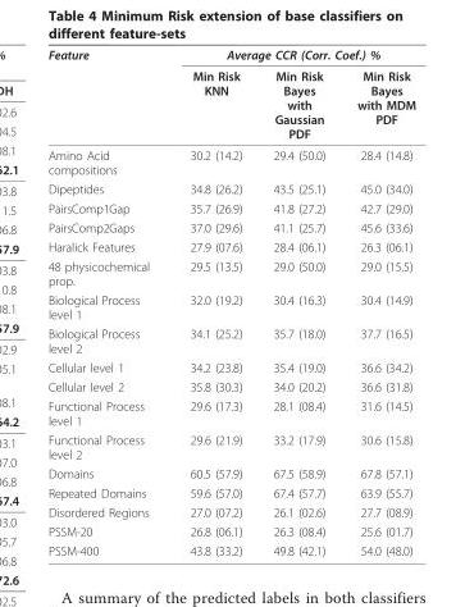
<table><thead><tr><td rowspan="2">Feature</td><td colspan="3">Average CCR (Corr. Coef.) %</td></tr><tr><td>Min Risk KNN</td><td>Min Risk Bayes with Gaussian PDF</td><td>Min Risk Bayes with MDM PDF</td></tr></thead><tbody><tr><td>Amino Acid compositions</td><td>30.2 (14.2)</td><td>29.4 (50.0)</td><td>28.4 (14.8)</td></tr><tr><td>Dipeptides</td><td>34.8 (26.2)</td><td>43.5 (25.1)</td><td>45.0 (34.0)</td></tr><tr><td>PairsComp1Gap</td><td>35.7 (26.9)</td><td>41.8 (27.2)</td><td>42.7 (29.0)</td></tr><tr><td>PairsComp2Gaps</td><td>37.0 (29.6)</td><td>41.1 (25.7)</td><td>45.6 (33.6)</td></tr><tr><td>Haralick Features</td><td>27.9 (07.6)</td><td>28.4 (06.1)</td><td>26.3 (06.1)</td></tr><tr><td>48 physicochemical prop.</td><td>29.5 (13.5)</td><td>29.0 (50.0)</td><td>29.0 (15.5)</td></tr><tr><td>Biological Process level 1</td><td>32.0 (19.2)</td><td>30.4 (16.3)</td><td>30.4 (14.9)</td></tr><tr><td>Biological Process level 2</td><td>34.1 (25.2)</td><td>35.7 (18.0)</td><td>37.7 (16.5)</td></tr><tr><td>Cellular level 1</td><td>34.2 (23.8)</td><td>35.4 (19.0)</td><td>36.6 (34.2)</td></tr><tr><td>Cellular level 2</td><td>35.8 (30.3)</td><td>34.0 (20.2)</td><td>36.6 (31.8)</td></tr><tr><td>Functional Process level 1</td><td>29.6 (17.3)</td><td>28.1 (08.4)</td><td>31.6 (14.5)</td></tr><tr><td>Functional Process level 2</td><td>29.6 (21.9)</td><td>33.2 (17.9)</td><td>30.6 (15.8)</td></tr><tr><td>Domains</td><td>60.5 (57.9)</td><td>67.5 (58.9)</td><td>67.8 (57.1)</td></tr><tr><td>Repeated Domains</td><td>59.6 (57.0)</td><td>67.4 (57.7)</td><td>63.9 (55.7)</td></tr><tr><td>Disordered Regions</td><td>27.0 (07.2)</td><td>26.1 (02.6)</td><td>27.7 (08.9)</td></tr><tr><td>PSSM-20</td><td>26.8 (06.1)</td><td>26.3 (08.4)</td><td>25.6 (01.7)</td></tr><tr><td>PSSM-400</td><td>43.8 (33.2)</td><td>49.8 (42.1)</td><td>54.0 (48.0)</td></tr></tbody></table>